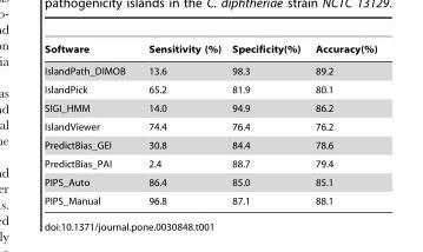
<table><thead><tr><td>Software</td><td>Sensitivity (%)</td><td>Specificity(%)</td><td>Accuracy(%)</td></tr></thead><tbody><tr><td>IslandPath_DIMOB</td><td>13.6</td><td>98.3</td><td>89.2</td></tr><tr><td>IslandPick</td><td>65.2</td><td>81.9</td><td>80.1</td></tr><tr><td>SIGI_HMM</td><td>14.0</td><td>94.9</td><td>86.2</td></tr><tr><td>IslandViewer</td><td>74.4</td><td>76.4</td><td>76.2</td></tr><tr><td>PredictBias_GEI</td><td>30.8</td><td>84.4</td><td>78.6</td></tr><tr><td>PredictBias_PAI</td><td>2.4</td><td>88.7</td><td>79.4</td></tr><tr><td>PIPS_Auto</td><td>86.4</td><td>85.0</td><td>85.1</td></tr><tr><td>PIPS_Manual</td><td>96.8</td><td>87.1</td><td>88.1</td></tr></tbody></table>